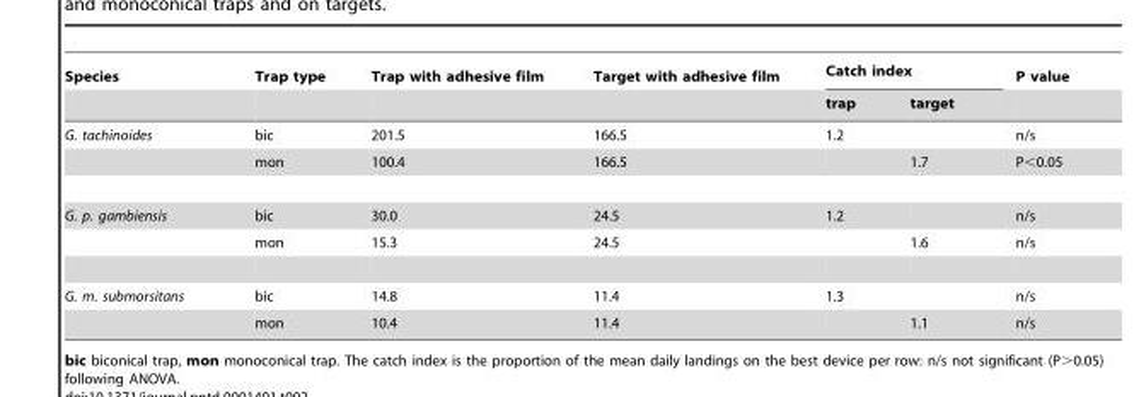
<table><thead><tr><td rowspan="2">Species</td><td rowspan="2">Trap type</td><td rowspan="2">Trap with adhesive film</td><td rowspan="2">Target with adhesive film</td><td colspan="2">Catch index</td><td rowspan="2">P value</td></tr><tr><td>trap</td><td>target</td></tr></thead><tbody><tr><td rowspan="2">G. tachinoides</td><td>bic</td><td>201.5</td><td>166.5</td><td>1.2</td><td></td><td>n/s</td></tr><tr><td>mon</td><td>100.4</td><td>166.5</td><td></td><td>1.7</td><td>P&lt;0.05</td></tr><tr><td rowspan="2">G. p. gambiensis</td><td>bic</td><td>30.0</td><td>24.5</td><td>1.2</td><td></td><td>n/s</td></tr><tr><td>mon</td><td>15.3</td><td>24.5</td><td></td><td>1.6</td><td>n/s</td></tr><tr><td rowspan="2">G. m. submorsitans</td><td>bic</td><td>14.8</td><td>11.4</td><td>1.3</td><td></td><td>n/s</td></tr><tr><td>mon</td><td>10.4</td><td>11.4</td><td></td><td>1.1</td><td>n/s</td></tr></tbody></table>